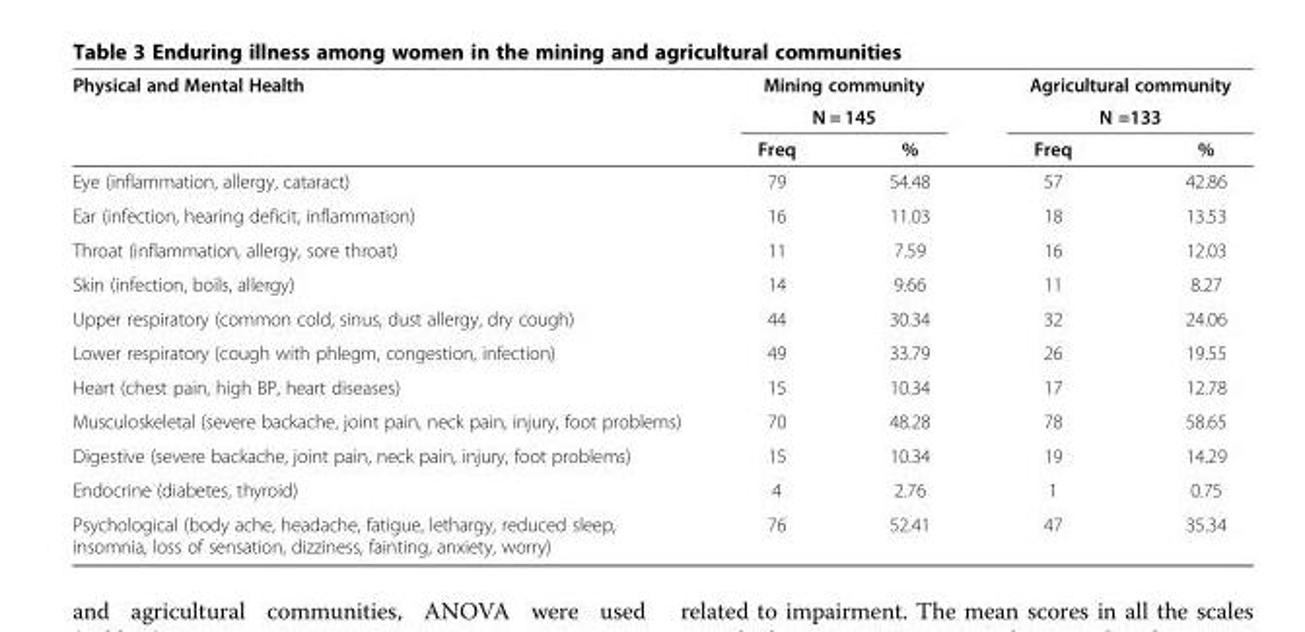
<table><thead><tr><td rowspan="3">Physical and Mental Health</td><td rowspan="2" colspan="2">Mining community N = 145</td><td rowspan="2" colspan="2">Agricultural community N =133</td></tr><tr></tr><tr><td>Freq</td><td>%</td><td>Freq</td><td>%</td></tr></thead><tbody><tr><td>Eye (inflammation, allergy, cataract)</td><td>79</td><td>54.48</td><td>57</td><td>42.86</td></tr><tr><td>Ear (infection, hearing deficit, inflammation)</td><td>16</td><td>11.03</td><td>18</td><td>13.53</td></tr><tr><td>Throat (inflammation, allergy, sore throat)</td><td>11</td><td>7.59</td><td>16</td><td>12.03</td></tr><tr><td>Skin (infection, boils, allergy)</td><td>14</td><td>9.66</td><td>11</td><td>8.27</td></tr><tr><td>Upper respiratory (common cold, sinus, dust allergy, dry cough)</td><td>44</td><td>30.34</td><td>32</td><td>24.06</td></tr><tr><td>Lower respiratory (cough with phlegm, congestion, infection)</td><td>49</td><td>33.79</td><td>26</td><td>19.55</td></tr><tr><td>Heart (chest pain, high BP, heart diseases)</td><td>15</td><td>10.34</td><td>17</td><td>12.78</td></tr><tr><td>Musculoskeletal (severe backache, joint pain, neck pain, injury, foot problems)</td><td>70</td><td>48.28</td><td>78</td><td>58.65</td></tr><tr><td>Digestive (severe backache, joint pain, neck pain, injury, foot problems)</td><td>15</td><td>10.34</td><td>19</td><td>14.29</td></tr><tr><td>Endocrine (diabetes, thyroid)</td><td>4</td><td>2.76</td><td>1</td><td>0.75</td></tr><tr><td>Psychological (body ache, headache, fatigue, lethargy, reduced sleep, insomnia, loss of sensation, dizziness, fainting, anxiety, worry)</td><td>76</td><td>52.41</td><td>47</td><td>35.34</td></tr></tbody></table>